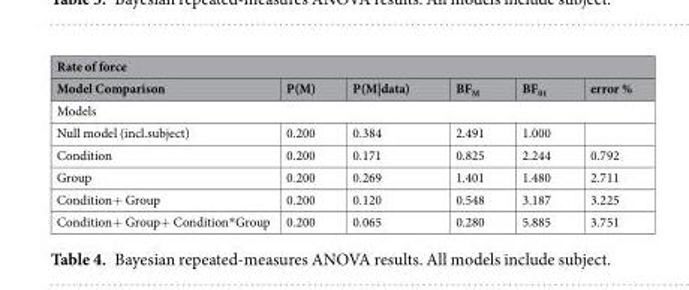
<table><thead><tr><td colspan="6">Rate of force</td></tr><tr><td>Model Comparison</td><td>P(M)</td><td>P(M|data)</td><td>BF<sub>M</sub></td><td>BF<sub>01</sub></td><td>error %</td></tr></thead><tbody><tr><td colspan="6">Models</td></tr><tr><td>Null model (incl.subject)</td><td>0.200</td><td>0.384</td><td>2.491</td><td>1.000</td><td></td></tr><tr><td>Condition</td><td>0.200</td><td>0.171</td><td>0.825</td><td>2.244</td><td>0.792</td></tr><tr><td>Group</td><td>0.200</td><td>0.269</td><td>1.401</td><td>1.480</td><td>2.711</td></tr><tr><td>Condition+ Group</td><td>0.200</td><td>0.120</td><td>0.548</td><td>3.187</td><td>3.225</td></tr><tr><td>Condition+ Group+ Condition*Group</td><td>0.200</td><td>0.065</td><td>0.280</td><td>5.885</td><td>3.751</td></tr></tbody></table>